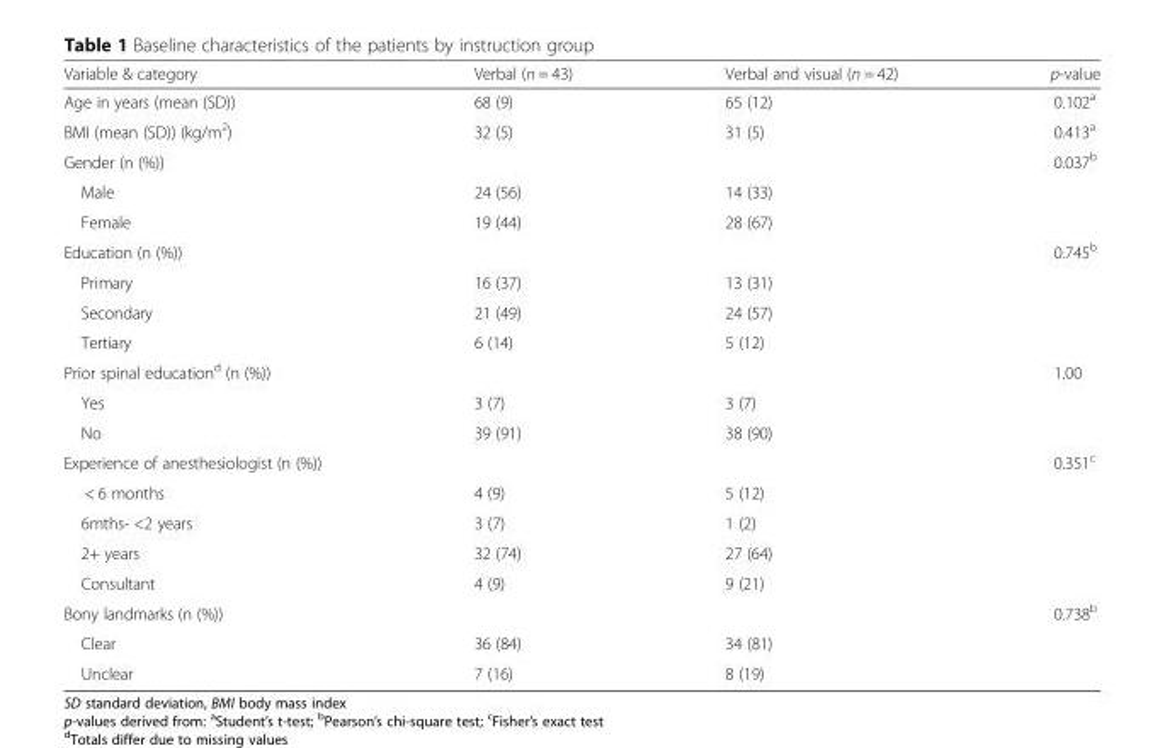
<table><thead><tr><td>Variable &amp; category</td><td>Verbal (n = 43)</td><td>Verbal and visual (n = 42)</td><td>p-value</td></tr></thead><tbody><tr><td>Age in years (mean (SD))</td><td>68 (9)</td><td>65 (12)</td><td>0.102<sup>a</sup></td></tr><tr><td>BMI (mean (SD)) (kg/m<sup>2</sup>)</td><td>32 (5)</td><td>31 (5)</td><td>0.413<sup>a</sup></td></tr><tr><td>Gender (n (%))</td><td></td><td></td><td>0.037<sup>b</sup></td></tr><tr><td>Male</td><td>24 (56)</td><td>14 (33)</td><td></td></tr><tr><td>Female</td><td>19 (44)</td><td>28 (67)</td><td></td></tr><tr><td>Education (n (%))</td><td></td><td></td><td>0.745<sup>b</sup></td></tr><tr><td>Primary</td><td>16 (37)</td><td>13 (31)</td><td></td></tr><tr><td>Secondary</td><td>21 (49)</td><td>24 (57)</td><td></td></tr><tr><td>Tertiary</td><td>6 (14)</td><td>5 (12)</td><td></td></tr><tr><td>Prior spinal education<sup>d</sup> (n (%))</td><td></td><td></td><td>1.00</td></tr><tr><td>Yes</td><td>3 (7)</td><td>3 (7)</td><td></td></tr><tr><td>No</td><td>39 (91)</td><td>38 (90)</td><td></td></tr><tr><td>Experience of anesthesiologist (n (%))</td><td></td><td></td><td>0.351<sup>c</sup></td></tr><tr><td>&lt; 6 months</td><td>4 (9)</td><td>5 (12)</td><td></td></tr><tr><td>6mths- &lt;2 years</td><td>3 (7)</td><td>1 (2)</td><td></td></tr><tr><td>2+ years</td><td>32 (74)</td><td>27 (64)</td><td></td></tr><tr><td>Consultant</td><td>4 (9)</td><td>9 (21)</td><td></td></tr><tr><td>Bony landmarks (n (%))</td><td></td><td></td><td>0.738<sup>b</sup></td></tr><tr><td>Clear</td><td>36 (84)</td><td>34 (81)</td><td></td></tr><tr><td>Unclear</td><td>7 (16)</td><td>8 (19)</td><td></td></tr></tbody></table>